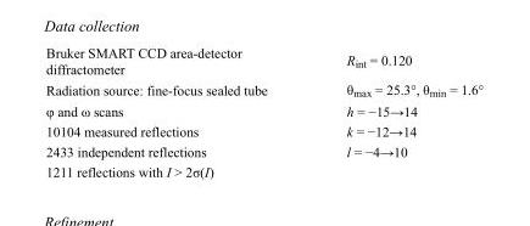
<table><tbody><tr><td>Bruker SMART CCD area-detector diffractometer</td><td>R<sub>int</sub> = 0.120</td></tr><tr><td>Radiation source: fine-focus sealed tube</td><td>θ<sub>max</sub> = 25.3°, θ<sub>min</sub> = 1.6°</td></tr><tr><td>φ and ω scans</td><td>h = −15→14</td></tr><tr><td>10104 measured reflections</td><td>k = −12→14</td></tr><tr><td>2433 independent reflections</td><td>l = −4→10</td></tr><tr><td>1211 reflections with I &gt; 2σ(I)</td><td></td></tr></tbody></table>